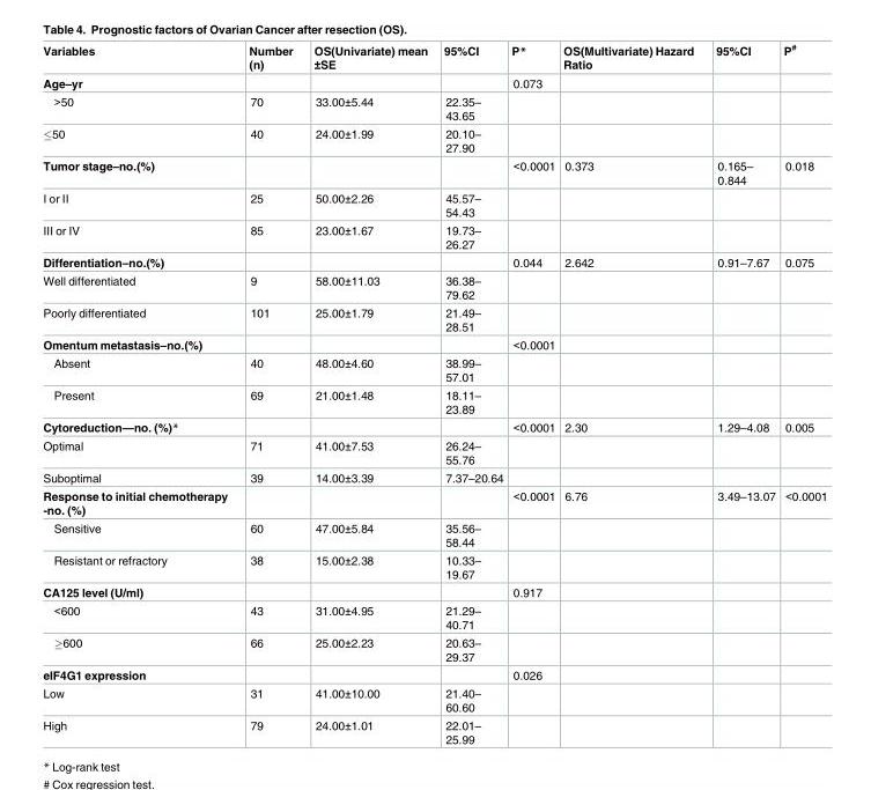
<table><thead><tr><td>Variables</td><td>Number (n)</td><td>OS(Univariate) mean ±SE</td><td>95%CI</td><td>P*</td><td>OS(Multivariate) Hazard Ratio</td><td>95%CI</td><td>P<sup>#</sup></td></tr></thead><tbody><tr><td>Age–yr</td><td></td><td></td><td></td><td>0.073</td><td></td><td></td><td></td></tr><tr><td>&gt;50</td><td>70</td><td>33.00±5.44</td><td>22.35– 43.65</td><td></td><td></td><td></td><td></td></tr><tr><td>≤50</td><td>40</td><td>24.00±1.99</td><td>20.10– 27.90</td><td></td><td></td><td></td><td></td></tr><tr><td>Tumor stage–no.(%)</td><td></td><td></td><td></td><td>&lt;0.0001</td><td>0.373</td><td>0.165– 0.844</td><td>0.018</td></tr><tr><td>I or II</td><td>25</td><td>50.00±2.26</td><td>45.57– 54.43</td><td></td><td></td><td></td><td></td></tr><tr><td>III or IV</td><td>85</td><td>23.00±1.67</td><td>19.73– 26.27</td><td></td><td></td><td></td><td></td></tr><tr><td>Differentiation–no.(%)</td><td></td><td></td><td></td><td>0.044</td><td>2.642</td><td>0.91–7.67</td><td>0.075</td></tr><tr><td>Well differentiated</td><td>9</td><td>58.00±11.03</td><td>36.38– 79.62</td><td></td><td></td><td></td><td></td></tr><tr><td>Poorly differentiated</td><td>101</td><td>25.00±1.79</td><td>21.49– 28.51</td><td></td><td></td><td></td><td></td></tr><tr><td>Omentum metastasis–no.(%)</td><td></td><td></td><td></td><td>&lt;0.0001</td><td></td><td></td><td></td></tr><tr><td>Absent</td><td>40</td><td>48.00±4.60</td><td>38.99– 57.01</td><td></td><td></td><td></td><td></td></tr><tr><td>Present</td><td>69</td><td>21.00±1.48</td><td>18.11– 23.89</td><td></td><td></td><td></td><td></td></tr><tr><td>Cytoreduction—no. (%)*</td><td></td><td></td><td></td><td>&lt;0.0001</td><td>2.30</td><td>1.29–4.08</td><td>0.005</td></tr><tr><td>Optimal</td><td>71</td><td>41.00±7.53</td><td>26.24– 55.76</td><td></td><td></td><td></td><td></td></tr><tr><td>Suboptimal</td><td>39</td><td>14.00±3.39</td><td>7.37–20.64</td><td></td><td></td><td></td><td></td></tr><tr><td>Response to initial chemotherapy -no. (%)</td><td></td><td></td><td></td><td>&lt;0.0001</td><td>6.76</td><td>3.49–13.07</td><td>&lt;0.0001</td></tr><tr><td>Sensitive</td><td>60</td><td>47.00±5.84</td><td>35.56– 58.44</td><td></td><td></td><td></td><td></td></tr><tr><td>Resistant or refractory</td><td>38</td><td>15.00±2.38</td><td>10.33– 19.67</td><td></td><td></td><td></td><td></td></tr><tr><td>CA125 level (U/ml)</td><td></td><td></td><td></td><td>0.917</td><td></td><td></td><td></td></tr><tr><td>&lt;600</td><td>43</td><td>31.00±4.95</td><td>21.29– 40.71</td><td></td><td></td><td></td><td></td></tr><tr><td>≥600</td><td>66</td><td>25.00±2.23</td><td>20.63– 29.37</td><td></td><td></td><td></td><td></td></tr><tr><td>eIF4G1 expression</td><td></td><td></td><td></td><td>0.026</td><td></td><td></td><td></td></tr><tr><td>Low</td><td>31</td><td>41.00±10.00</td><td>21.40– 60.60</td><td></td><td></td><td></td><td></td></tr><tr><td>High</td><td>79</td><td>24.00±1.01</td><td>22.01– 25.99</td><td></td><td></td><td></td><td></td></tr></tbody></table>